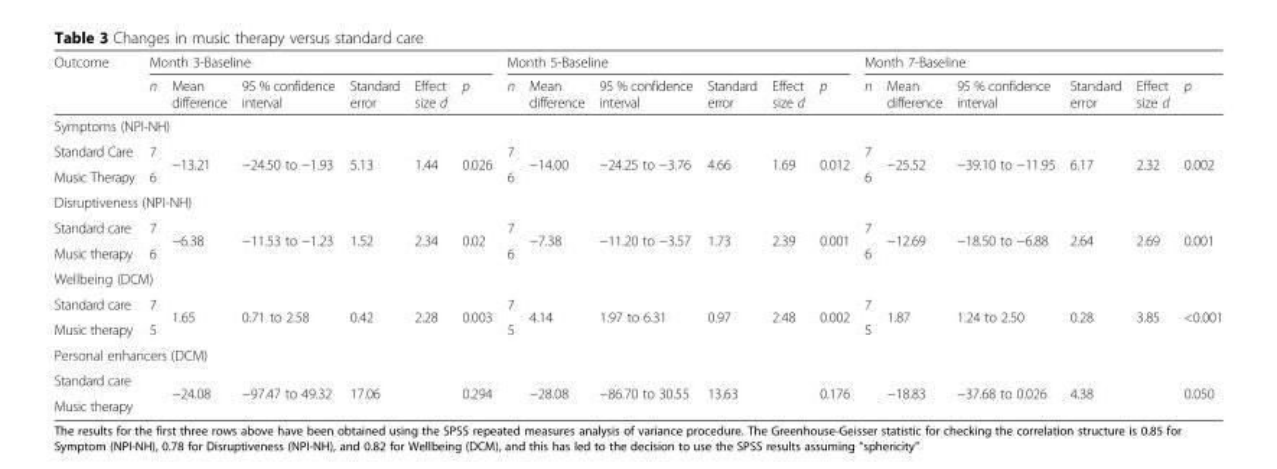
<table><thead><tr><td rowspan="2">Outcome</td><td colspan="6">Month 3-Baseline</td><td colspan="6">Month 5-Baseline</td><td colspan="6">Month 7-Baseline</td></tr><tr><td>n</td><td>Mean difference</td><td>95 % confidence interval</td><td>Standard error</td><td>Effect size d</td><td>p</td><td>n</td><td>Mean difference</td><td>95 % confidence interval</td><td>Standard error</td><td>Effect size d</td><td>p</td><td>n</td><td>Mean difference</td><td>95 % confidence interval</td><td>Standard error</td><td>Effect size d</td><td>p</td></tr></thead><tbody><tr><td colspan="19">Symptoms (NPI-NH)</td></tr><tr><td>Standard Care</td><td>7</td><td rowspan="2">−13.21</td><td rowspan="2">−24.50 to −1.93</td><td rowspan="2">5.13</td><td rowspan="2">1.44</td><td rowspan="2">0.026</td><td>7</td><td rowspan="2">−14.00</td><td rowspan="2">−24.25 to −3.76</td><td rowspan="2">4.66</td><td rowspan="2">1.69</td><td rowspan="2">0.012</td><td>7</td><td rowspan="2">−25.52</td><td rowspan="2">−39.10 to −11.95</td><td rowspan="2">6.17</td><td rowspan="2">2.32</td><td rowspan="2">0.002</td></tr><tr><td>Music Therapy</td><td>6</td><td>6</td><td>6</td></tr><tr><td colspan="19">Disruptiveness (NPI-NH)</td></tr><tr><td>Standard care</td><td>7</td><td rowspan="2">−6.38</td><td rowspan="2">−11.53 to −1.23</td><td rowspan="2">1.52</td><td rowspan="2">2.34</td><td rowspan="2">0.02</td><td>7</td><td rowspan="2">−7.38</td><td rowspan="2">−11.20 to −3.57</td><td rowspan="2">1.73</td><td rowspan="2">2.39</td><td rowspan="2">0.001</td><td>7</td><td rowspan="2">−12.69</td><td rowspan="2">−18.50 to −6.88</td><td rowspan="2">2.64</td><td rowspan="2">2.69</td><td rowspan="2">0.001</td></tr><tr><td>Music therapy</td><td>6</td><td>6</td><td>6</td></tr><tr><td colspan="19">Wellbeing (DCM)</td></tr><tr><td>Standard care</td><td>7</td><td rowspan="2">1.65</td><td rowspan="2">0.71 to 2.58</td><td rowspan="2">0.42</td><td rowspan="2">2.28</td><td rowspan="2">0.003</td><td>7</td><td rowspan="2">4.14</td><td rowspan="2">1.97 to 6.31</td><td rowspan="2">0.97</td><td rowspan="2">2.48</td><td rowspan="2">0.002</td><td>7</td><td rowspan="2">1.87</td><td rowspan="2">1.24 to 2.50</td><td rowspan="2">0.28</td><td rowspan="2">3.85</td><td rowspan="2">&lt;0.001</td></tr><tr><td>Music therapy</td><td>5</td><td>5</td><td>5</td></tr><tr><td colspan="19">Personal enhancers (DCM)</td></tr><tr><td>Standard care</td><td rowspan="2"></td><td rowspan="2">−24.08</td><td rowspan="2">−97.47 to 49.32</td><td rowspan="2">17.06</td><td rowspan="2"></td><td rowspan="2">0.294</td><td rowspan="2"></td><td rowspan="2">−28.08</td><td rowspan="2">−86.70 to 30.55</td><td rowspan="2">13.63</td><td rowspan="2"></td><td rowspan="2">0.176</td><td rowspan="2"></td><td rowspan="2">−18.83</td><td rowspan="2">−37.68 to 0.026</td><td rowspan="2">4.38</td><td rowspan="2"></td><td rowspan="2">0.050</td></tr><tr><td>Music therapy</td></tr></tbody></table>